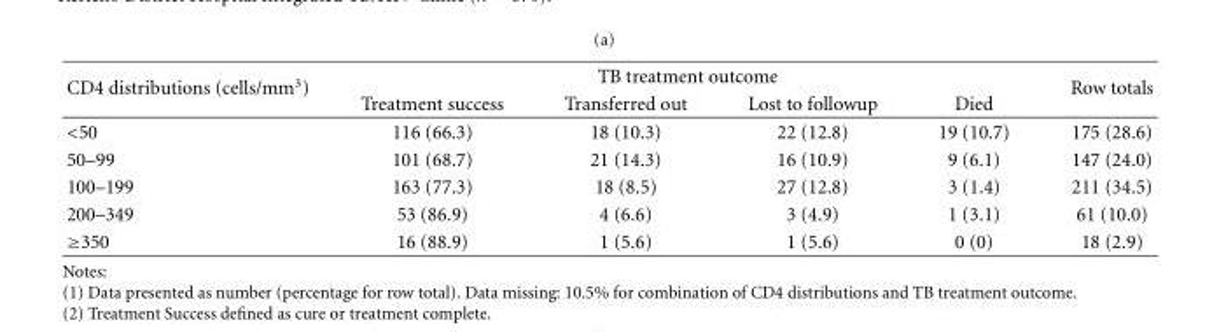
<table><thead><tr><td rowspan="2">CD4 distributions (cells/mm<sup>3</sup>)</td><td colspan="4">TB treatment outcome</td><td rowspan="2">Row totals</td></tr><tr><td>Treatment success</td><td>Transferred out</td><td>Lost to followup</td><td>Died</td></tr></thead><tbody><tr><td>&lt;50</td><td>116 (66.3)</td><td>18 (10.3)</td><td>22 (12.8)</td><td>19 (10.7)</td><td>175 (28.6)</td></tr><tr><td>50–99</td><td>101 (68.7)</td><td>21 (14.3)</td><td>16 (10.9)</td><td>9 (6.1)</td><td>147 (24.0)</td></tr><tr><td>100–199</td><td>163 (77.3)</td><td>18 (8.5)</td><td>27 (12.8)</td><td>3 (1.4)</td><td>211 (34.5)</td></tr><tr><td>200–349</td><td>53 (86.9)</td><td>4 (6.6)</td><td>3 (4.9)</td><td>1 (3.1)</td><td>61 (10.0)</td></tr><tr><td>≥350</td><td>16 (88.9)</td><td>1 (5.6)</td><td>1 (5.6)</td><td>0 (0)</td><td>18 (2.9)</td></tr></tbody></table>